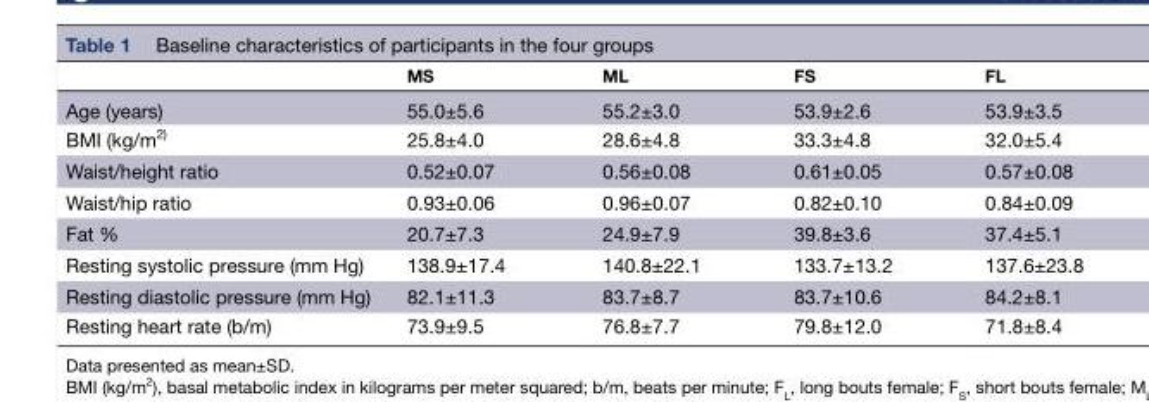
<table><thead><tr><td></td><td>M<sub>S</sub></td><td>M<sub>L</sub></td><td>F<sub>S</sub></td><td>F<sub>L</sub></td></tr></thead><tbody><tr><td>Age (years)</td><td>55.0±5.6</td><td>55.2±3.0</td><td>53.9±2.6</td><td>53.9±3.5</td></tr><tr><td>BMI (kg/m<sup>2)</sup></td><td>25.8±4.0</td><td>28.6±4.8</td><td>33.3±4.8</td><td>32.0±5.4</td></tr><tr><td>Waist/height ratio</td><td>0.52±0.07</td><td>0.56±0.08</td><td>0.61±0.05</td><td>0.57±0.08</td></tr><tr><td>Waist/hip ratio</td><td>0.93±0.06</td><td>0.96±0.07</td><td>0.82±0.10</td><td>0.84±0.09</td></tr><tr><td>Fat %</td><td>20.7±7.3</td><td>24.9±7.9</td><td>39.8±3.6</td><td>37.4±5.1</td></tr><tr><td>Resting systolic pressure (mm Hg)</td><td>138.9±17.4</td><td>140.8±22.1</td><td>133.7±13.2</td><td>137.6±23.8</td></tr><tr><td>Resting diastolic pressure (mm Hg)</td><td>82.1±11.3</td><td>83.7±8.7</td><td>83.7±10.6</td><td>84.2±8.1</td></tr><tr><td>Resting heart rate (b/m)</td><td>73.9±9.5</td><td>76.8±7.7</td><td>79.8±12.0</td><td>71.8±8.4</td></tr></tbody></table>